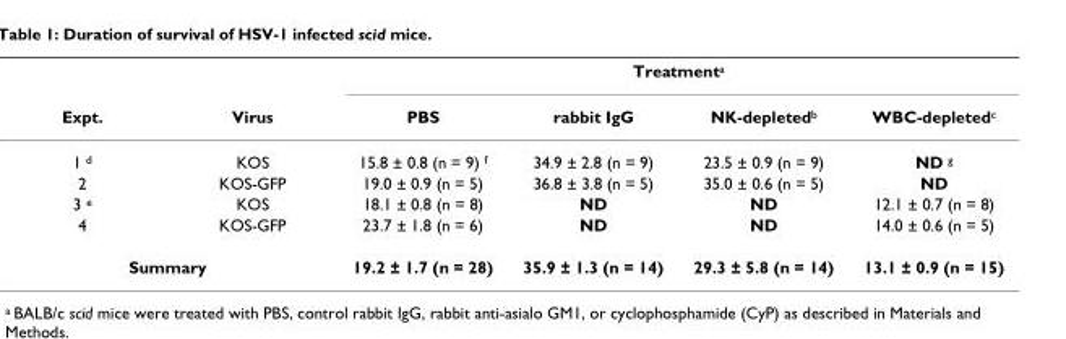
<table><thead><tr><td rowspan="2">Expt.</td><td rowspan="2">Virus</td><td colspan="4">Treatment<sup>a</sup></td></tr><tr><td>PBS</td><td>rabbit IgG</td><td>NK-depleted<sup>b</sup></td><td>WBC-depleted<sup>c</sup></td></tr></thead><tbody><tr><td>1 <sup>d</sup></td><td>KOS</td><td>15.8 ± 0.8 (n = 9) <sup>f</sup></td><td>34.9 ± 2.8 (n = 9)</td><td>23.5 ± 0.9 (n = 9)</td><td>ND <sup>g</sup></td></tr><tr><td>2</td><td>KOS-GFP</td><td>19.0 ± 0.9 (n = 5)</td><td>36.8 ± 3.8 (n = 5)</td><td>35.0 ± 0.6 (n = 5)</td><td>ND</td></tr><tr><td>3 <sup>e</sup></td><td>KOS</td><td>18.1 ± 0.8 (n = 8)</td><td>ND</td><td>ND</td><td>12.1 ± 0.7 (n = 8)</td></tr><tr><td>4</td><td>KOS-GFP</td><td>23.7 ± 1.8 (n = 6)</td><td>ND</td><td>ND</td><td>14.0 ± 0.6 (n = 5)</td></tr><tr><td colspan="2">Summary</td><td>19.2 ± 1.7 (n = 28)</td><td>35.9 ± 1.3 (n = 14)</td><td>29.3 ± 5.8 (n = 14)</td><td>13.1 ± 0.9 (n = 15)</td></tr></tbody></table>